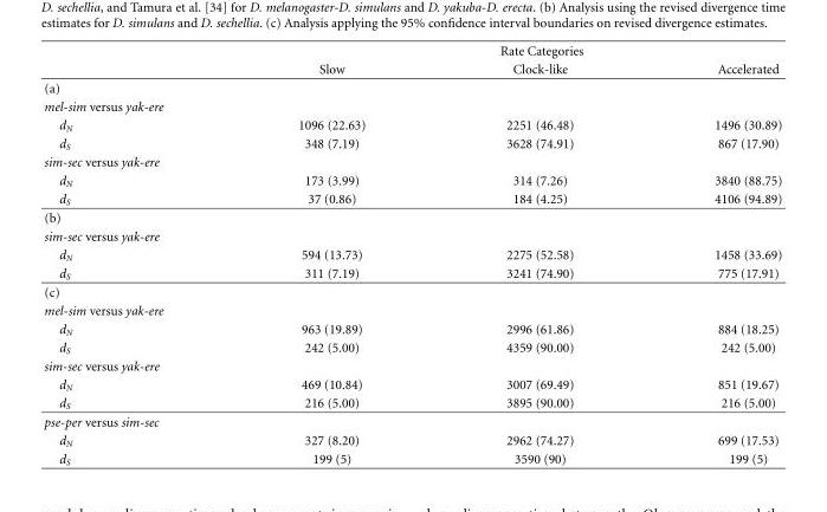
<table><thead><tr><td rowspan="2"></td><td colspan="3">Rate Categories</td></tr><tr><td>Slow</td><td>Clock-like</td><td>Accelerated</td></tr></thead><tbody><tr><td colspan="4">(a)</td></tr><tr><td colspan="4">mel-sim versus yak-ere</td></tr><tr><td>d<sub>N</sub></td><td>1096 (22.63)</td><td>2251 (46.48)</td><td>1496 (30.89)</td></tr><tr><td>d<sub>S</sub></td><td>348 (7.19)</td><td>3628 (74.91)</td><td>867 (17.90)</td></tr><tr><td colspan="4">sim-sec versus yak-ere</td></tr><tr><td>d<sub>N</sub></td><td>173 (3.99)</td><td>314 (7.26)</td><td>3840 (88.75)</td></tr><tr><td>d<sub>S</sub></td><td>37 (0.86)</td><td>184 (4.25)</td><td>4106 (94.89)</td></tr><tr><td colspan="4">(b)</td></tr><tr><td colspan="4">sim-sec versus yak-ere</td></tr><tr><td>d<sub>N</sub></td><td>594 (13.73)</td><td>2275 (52.58)</td><td>1458 (33.69)</td></tr><tr><td>d<sub>S</sub></td><td>311 (7.19)</td><td>3241 (74.90)</td><td>775 (17.91)</td></tr><tr><td colspan="4">(c)</td></tr><tr><td colspan="4">mel-sim versus yak-ere</td></tr><tr><td>d<sub>N</sub></td><td>963 (19.89)</td><td>2996 (61.86)</td><td>884 (18.25)</td></tr><tr><td>d<sub>S</sub></td><td>242 (5.00)</td><td>4359 (90.00)</td><td>242 (5.00)</td></tr><tr><td colspan="4">sim-sec versus yak-ere</td></tr><tr><td>d<sub>N</sub></td><td>469 (10.84)</td><td>3007 (69.49)</td><td>851 (19.67)</td></tr><tr><td>d<sub>S</sub></td><td>216 (5.00)</td><td>3895 (90.00)</td><td>216 (5.00)</td></tr><tr><td colspan="4">pse-per versus sim-sec</td></tr><tr><td>d<sub>N</sub></td><td>327 (8.20)</td><td>2962 (74.27)</td><td>699 (17.53)</td></tr><tr><td>d<sub>S</sub></td><td>199 (5)</td><td>3590 (90)</td><td>199 (5)</td></tr></tbody></table>